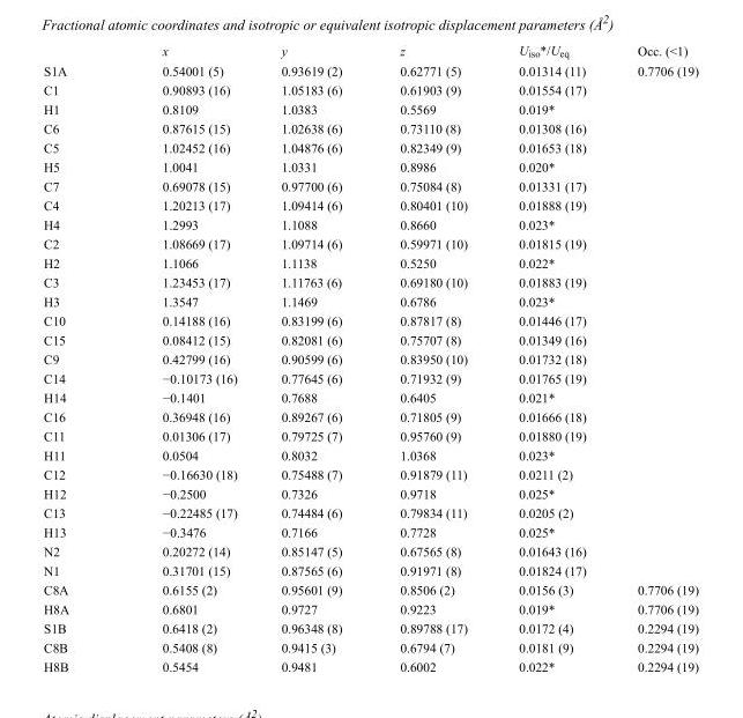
<table><thead><tr><td></td><td>x</td><td>y</td><td>z</td><td>U<sub>iso</sub>*/U<sub>eq</sub></td><td>Occ. (&lt;1)</td></tr></thead><tbody><tr><td>S1A</td><td>0.54001 (5)</td><td>0.93619 (2)</td><td>0.62771 (5)</td><td>0.01314 (11)</td><td>0.7706 (19)</td></tr><tr><td>C1</td><td>0.90893 (16)</td><td>1.05183 (6)</td><td>0.61903 (9)</td><td>0.01554 (17)</td><td></td></tr><tr><td>H1</td><td>0.8109</td><td>1.0383</td><td>0.5569</td><td>0.019*</td><td></td></tr><tr><td>C6</td><td>0.87615 (15)</td><td>1.02638 (6)</td><td>0.73110 (8)</td><td>0.01308 (16)</td><td></td></tr><tr><td>C5</td><td>1.02452 (16)</td><td>1.04876 (6)</td><td>0.82349 (9)</td><td>0.01653 (18)</td><td></td></tr><tr><td>H5</td><td>1.0041</td><td>1.0331</td><td>0.8986</td><td>0.020*</td><td></td></tr><tr><td>C7</td><td>0.69078 (15)</td><td>0.97700 (6)</td><td>0.75084 (8)</td><td>0.01331 (17)</td><td></td></tr><tr><td>C4</td><td>1.20213 (17)</td><td>1.09414 (6)</td><td>0.80401 (10)</td><td>0.01888 (19)</td><td></td></tr><tr><td>H4</td><td>1.2993</td><td>1.1088</td><td>0.8660</td><td>0.023*</td><td></td></tr><tr><td>C2</td><td>1.08669 (17)</td><td>1.09714 (6)</td><td>0.59971 (10)</td><td>0.01815 (19)</td><td></td></tr><tr><td>H2</td><td>1.1066</td><td>1.1138</td><td>0.5250</td><td>0.022*</td><td></td></tr><tr><td>C3</td><td>1.23453 (17)</td><td>1.11763 (6)</td><td>0.69180 (10)</td><td>0.01883 (19)</td><td></td></tr><tr><td>H3</td><td>1.3547</td><td>1.1469</td><td>0.6786</td><td>0.023*</td><td></td></tr><tr><td>C10</td><td>0.14188 (16)</td><td>0.83199 (6)</td><td>0.87817 (8)</td><td>0.01446 (17)</td><td></td></tr><tr><td>C15</td><td>0.08412 (15)</td><td>0.82081 (6)</td><td>0.75707 (8)</td><td>0.01349 (16)</td><td></td></tr><tr><td>C9</td><td>0.42799 (16)</td><td>0.90599 (6)</td><td>0.83950 (10)</td><td>0.01732 (18)</td><td></td></tr><tr><td>C14</td><td>−0.10173 (16)</td><td>0.77645 (6)</td><td>0.71932 (9)</td><td>0.01765 (19)</td><td></td></tr><tr><td>H14</td><td>−0.1401</td><td>0.7688</td><td>0.6405</td><td>0.021*</td><td></td></tr><tr><td>C16</td><td>0.36948 (16)</td><td>0.89267 (6)</td><td>0.71805 (9)</td><td>0.01666 (18)</td><td></td></tr><tr><td>C11</td><td>0.01306 (17)</td><td>0.79725 (7)</td><td>0.95760 (9)</td><td>0.01880 (19)</td><td></td></tr><tr><td>H11</td><td>0.0504</td><td>0.8032</td><td>1.0368</td><td>0.023*</td><td></td></tr><tr><td>C12</td><td>−0.16630 (18)</td><td>0.75488 (7)</td><td>0.91879 (11)</td><td>0.0211 (2)</td><td></td></tr><tr><td>H12</td><td>−0.2500</td><td>0.7326</td><td>0.9718</td><td>0.025*</td><td></td></tr><tr><td>C13</td><td>−0.22485 (17)</td><td>0.74484 (6)</td><td>0.79834 (11)</td><td>0.0205 (2)</td><td></td></tr><tr><td>H13</td><td>−0.3476</td><td>0.7166</td><td>0.7728</td><td>0.025*</td><td></td></tr><tr><td>N2</td><td>0.20272 (14)</td><td>0.85147 (5)</td><td>0.67565 (8)</td><td>0.01643 (16)</td><td></td></tr><tr><td>N1</td><td>0.31701 (15)</td><td>0.87565 (6)</td><td>0.91971 (8)</td><td>0.01824 (17)</td><td></td></tr><tr><td>C8A</td><td>0.6155 (2)</td><td>0.95601 (9)</td><td>0.8506 (2)</td><td>0.0156 (3)</td><td>0.7706 (19)</td></tr><tr><td>H8A</td><td>0.6801</td><td>0.9727</td><td>0.9223</td><td>0.019*</td><td>0.7706 (19)</td></tr><tr><td>S1B</td><td>0.6418 (2)</td><td>0.96348 (8)</td><td>0.89788 (17)</td><td>0.0172 (4)</td><td>0.2294 (19)</td></tr><tr><td>C8B</td><td>0.5408 (8)</td><td>0.9415 (3)</td><td>0.6794 (7)</td><td>0.0181 (9)</td><td>0.2294 (19)</td></tr><tr><td>H8B</td><td>0.5454</td><td>0.9481</td><td>0.6002</td><td>0.022*</td><td>0.2294 (19)</td></tr></tbody></table>